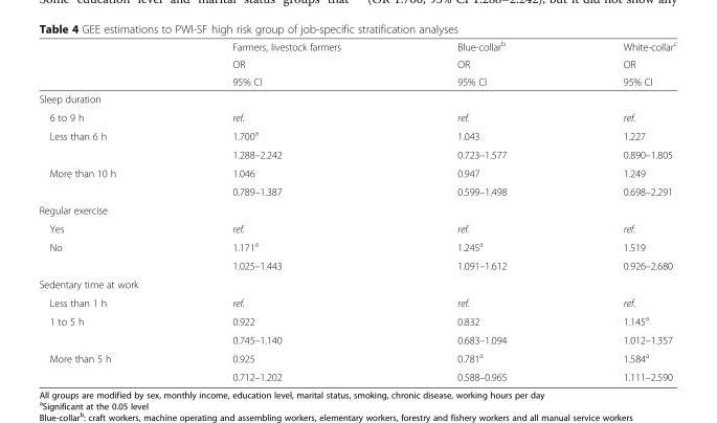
<table><thead><tr><td rowspan="3"></td><td rowspan="3">Farmers, livestock farmers OR 95% CI</td><td rowspan="3">Blue-collar<sup>b</sup> OR 95% CI</td><td rowspan="3">White-collar<sup>c</sup> OR 95% CI</td></tr><tr></tr><tr></tr></thead><tbody><tr><td colspan="4">Sleep duration</td></tr><tr><td>6 to 9 h</td><td>ref.</td><td>ref.</td><td>ref.</td></tr><tr><td rowspan="2">Less than 6 h</td><td>1.700<sup>a</sup></td><td>1.043</td><td>1.227</td></tr><tr><td>1.288–2.242</td><td>0.723–1.577</td><td>0.890–1.805</td></tr><tr><td rowspan="2">More than 10 h</td><td>1.046</td><td>0.947</td><td>1.249</td></tr><tr><td>0.789–1.387</td><td>0.599–1.498</td><td>0.698–2.291</td></tr><tr><td colspan="4">Regular exercise</td></tr><tr><td>Yes</td><td>ref.</td><td>ref.</td><td>ref.</td></tr><tr><td rowspan="2">No</td><td>1.171<sup>a</sup></td><td>1.245<sup>a</sup></td><td>1.519</td></tr><tr><td>1.025–1.443</td><td>1.091–1.612</td><td>0.926–2.680</td></tr><tr><td colspan="4">Sedentary time at work</td></tr><tr><td>Less than 1 h</td><td>ref.</td><td>ref.</td><td>ref.</td></tr><tr><td rowspan="2">1 to 5 h</td><td>0.922</td><td>0.832</td><td>1.145<sup>a</sup></td></tr><tr><td>0.745–1.140</td><td>0.683–1.094</td><td>1.012–1.357</td></tr><tr><td rowspan="2">More than 5 h</td><td>0.925</td><td>0.781<sup>a</sup></td><td>1.584<sup>a</sup></td></tr><tr><td>0.712–1.202</td><td>0.588–0.965</td><td>1.111–2.590</td></tr></tbody></table>